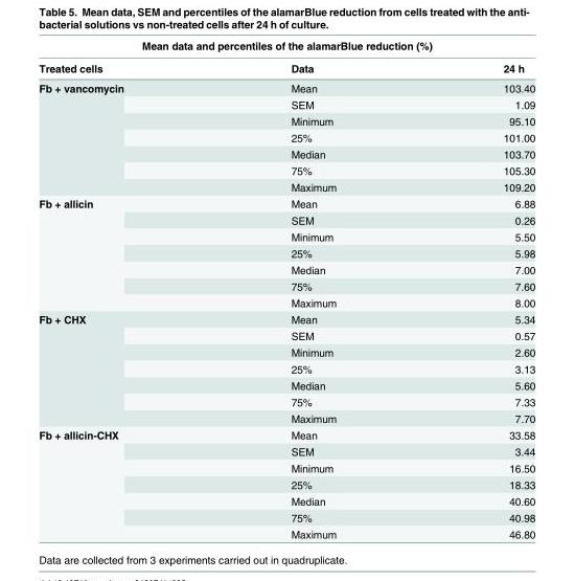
<table><thead><tr><td colspan="3">Mean data and percentiles of the alamarBlue reduction (%)</td></tr><tr><td>Treated cells</td><td>Data</td><td>24 h</td></tr></thead><tbody><tr><td rowspan="7">Fb + vancomycin</td><td>Mean</td><td>103.40</td></tr><tr><td>SEM</td><td>1.09</td></tr><tr><td>Minimum</td><td>95.10</td></tr><tr><td>25%</td><td>101.00</td></tr><tr><td>Median</td><td>103.70</td></tr><tr><td>75%</td><td>105.30</td></tr><tr><td>Maximum</td><td>109.20</td></tr><tr><td rowspan="7">Fb + allicin</td><td>Mean</td><td>6.88</td></tr><tr><td>SEM</td><td>0.26</td></tr><tr><td>Minimum</td><td>5.50</td></tr><tr><td>25%</td><td>5.98</td></tr><tr><td>Median</td><td>7.00</td></tr><tr><td>75%</td><td>7.60</td></tr><tr><td>Maximum</td><td>8.00</td></tr><tr><td rowspan="7">Fb + CHX</td><td>Mean</td><td>5.34</td></tr><tr><td>SEM</td><td>0.57</td></tr><tr><td>Minimum</td><td>2.60</td></tr><tr><td>25%</td><td>3.13</td></tr><tr><td>Median</td><td>5.60</td></tr><tr><td>75%</td><td>7.33</td></tr><tr><td>Maximum</td><td>7.70</td></tr><tr><td rowspan="7">Fb + allicin-CHX</td><td>Mean</td><td>33.58</td></tr><tr><td>SEM</td><td>3.44</td></tr><tr><td>Minimum</td><td>16.50</td></tr><tr><td>25%</td><td>18.33</td></tr><tr><td>Median</td><td>40.60</td></tr><tr><td>75%</td><td>40.98</td></tr><tr><td>Maximum</td><td>46.80</td></tr></tbody></table>